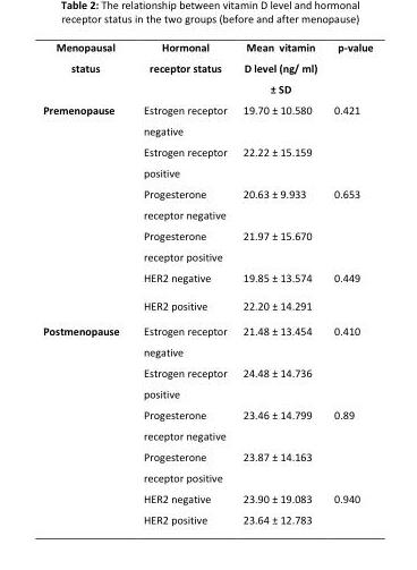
<table><tbody><tr><td>Menopausal status</td><td>Hormonal receptor status</td><td>Mean vitamin D level (ng/ ml) ± SD</td><td>p-value</td></tr><tr><td rowspan="6">Premenopause</td><td>Estrogen receptor negative</td><td>19.70 ± 10.580</td><td rowspan="2">0.421</td></tr><tr><td>Estrogen receptor positive</td><td>22.22 ± 15.159</td></tr><tr><td>Progesterone receptor negative</td><td>20.63 ± 9.933</td><td rowspan="2">0.653</td></tr><tr><td>Progesterone receptor positive</td><td>21.97 ± 15.670</td></tr><tr><td>HER2 negative</td><td>19.85 ± 13.574</td><td rowspan="2">0.449</td></tr><tr><td>HER2 positive</td><td>22.20 ± 14.291</td></tr><tr><td rowspan="6">Postmenopause</td><td>Estrogen receptor negative</td><td>21.48 ± 13.454</td><td rowspan="2">0.410</td></tr><tr><td>Estrogen receptor positive</td><td>24.48 ± 14.736</td></tr><tr><td>Progesterone receptor negative</td><td>23.46 ± 14.799</td><td rowspan="2">0.89</td></tr><tr><td>Progesterone receptor positive</td><td>23.87 ± 14.163</td></tr><tr><td>HER2 negative</td><td>23.90 ± 19.083</td><td rowspan="2">0.940</td></tr><tr><td>HER2 positive</td><td>23.64 ± 12.783</td></tr></tbody></table>